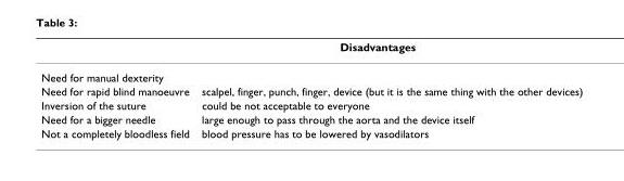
<table><thead><tr><td colspan="2">Disadvantages</td></tr><tr><td>Need for manual dexterity</td><td></td></tr></thead><tbody><tr><td>Need for rapid blind manoeuvre</td><td>scalpel, finger, punch, finger, device (but it is the same thing with the other devices)</td></tr><tr><td>Inversion of the suture</td><td>could be not acceptable to everyone</td></tr><tr><td>Need for a bigger needle</td><td>large enough to pass through the aorta and the device itself</td></tr><tr><td>Not a completely bloodless field</td><td>blood pressure has to be lowered by vasodilators</td></tr></tbody></table>